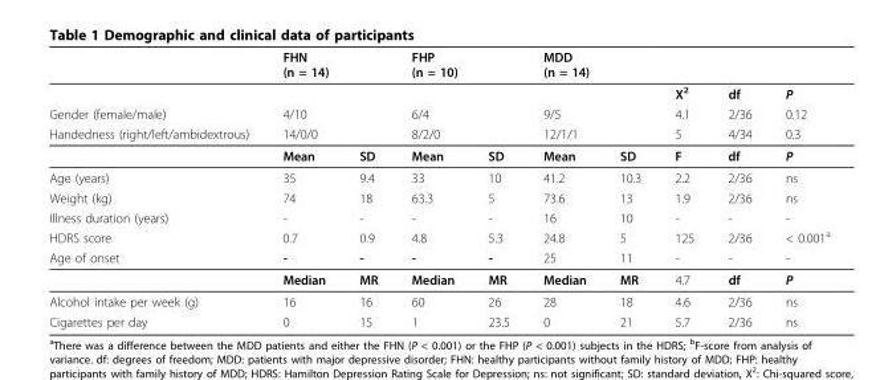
<table><thead><tr><td rowspan="2"></td><td colspan="2">FHN (n = 14)</td><td colspan="2">FHP (n = 10)</td><td colspan="2">MDD (n = 14)</td><td rowspan="2">Χ<sup>2</sup></td><td rowspan="2">df</td><td rowspan="2">P</td></tr><tr><td></td><td></td><td></td><td></td><td></td><td></td></tr></thead><tbody><tr><td>Gender (female/male)</td><td colspan="2">4/10</td><td>6/4</td><td></td><td>9/5</td><td></td><td>4.1</td><td>2/36</td><td>0.12</td></tr><tr><td rowspan="2">Handedness (right/left/ambidextrous)</td><td colspan="2">14/0/0</td><td>8/2/0</td><td></td><td>12/1/1</td><td></td><td>5</td><td>4/34</td><td>0.3</td></tr><tr><td>Mean</td><td>SD</td><td>Mean</td><td>SD</td><td>Mean</td><td>SD</td><td>F</td><td>df</td><td>P</td></tr><tr><td>Age (years)</td><td>35</td><td>9.4</td><td>33</td><td>10</td><td>41.2</td><td>10.3</td><td>2.2</td><td>2/36</td><td>ns</td></tr><tr><td>Weight (kg)</td><td>74</td><td>18</td><td>63.3</td><td>5</td><td>73.6</td><td>13</td><td>1.9</td><td>2/36</td><td>ns</td></tr><tr><td>Illness duration (years)</td><td>-</td><td>-</td><td>-</td><td>-</td><td>16</td><td>10</td><td>-</td><td>-</td><td>-</td></tr><tr><td>HDRS score</td><td>0.7</td><td>0.9</td><td>4.8</td><td>5.3</td><td>24.8</td><td>5</td><td>125</td><td>2/36</td><td>&lt; 0.001<sup>a</sup></td></tr><tr><td rowspan="2">Age of onset</td><td>-</td><td>-</td><td>-</td><td>-</td><td>25</td><td>11</td><td>-</td><td>-</td><td>-</td></tr><tr><td>Median</td><td>MR</td><td>Median</td><td>MR</td><td>Median</td><td>MR</td><td>4.7</td><td>df</td><td>P</td></tr><tr><td>Alcohol intake per week (g)</td><td>16</td><td>16</td><td>60</td><td>26</td><td>28</td><td>18</td><td>4.6</td><td>2/36</td><td>ns</td></tr><tr><td>Cigarettes per day</td><td>0</td><td>15</td><td>1</td><td>23.5</td><td>0</td><td>21</td><td>5.7</td><td>2/36</td><td>ns</td></tr></tbody></table>